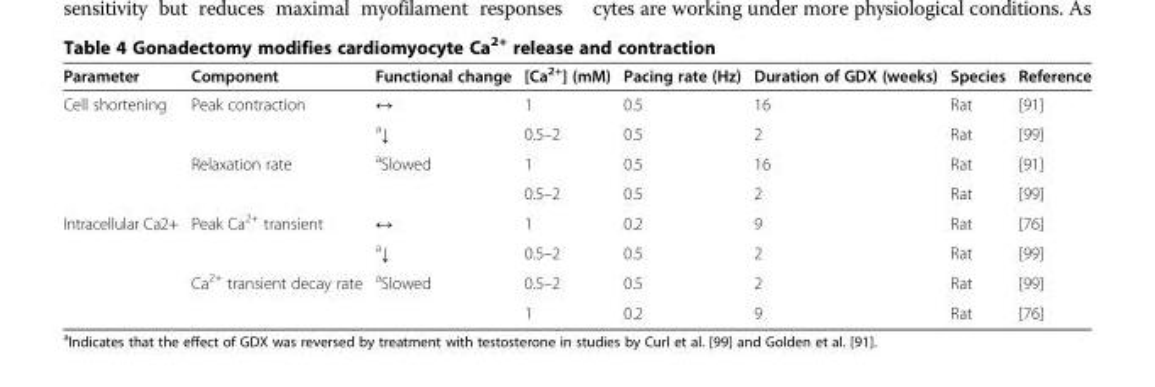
<table><thead><tr><td>Parameter</td><td>Component</td><td>Functional change</td><td>[Ca<sup>2+</sup>] (mM)</td><td>Pacing rate (Hz)</td><td>Duration of GDX (weeks)</td><td>Species</td><td>Reference</td></tr></thead><tbody><tr><td rowspan="4">Cell shortening</td><td rowspan="2">Peak contraction</td><td>↔</td><td>1</td><td>0.5</td><td>16</td><td>Rat</td><td>[91]</td></tr><tr><td><sup>a</sup>↓</td><td>0.5–2</td><td>0.5</td><td>2</td><td>Rat</td><td>[99]</td></tr><tr><td rowspan="2">Relaxation rate</td><td rowspan="2"><sup>a</sup>Slowed</td><td>1</td><td>0.5</td><td>16</td><td>Rat</td><td>[91]</td></tr><tr><td>0.5–2</td><td>0.5</td><td>2</td><td>Rat</td><td>[99]</td></tr><tr><td rowspan="4">Intracellular Ca2+</td><td>Peak Ca<sup>2+</sup> transient</td><td>↔</td><td>1</td><td>0.2</td><td>9</td><td>Rat</td><td>[76]</td></tr><tr><td></td><td><sup>a</sup>↓</td><td>0.5–2</td><td>0.5</td><td>2</td><td>Rat</td><td>[99]</td></tr><tr><td rowspan="2">Ca<sup>2+</sup> transient decay rate</td><td><sup>a</sup>Slowed</td><td>0.5–2</td><td>0.5</td><td>2</td><td>Rat</td><td>[99]</td></tr><tr><td></td><td>1</td><td>0.2</td><td>9</td><td>Rat</td><td>[76]</td></tr></tbody></table>